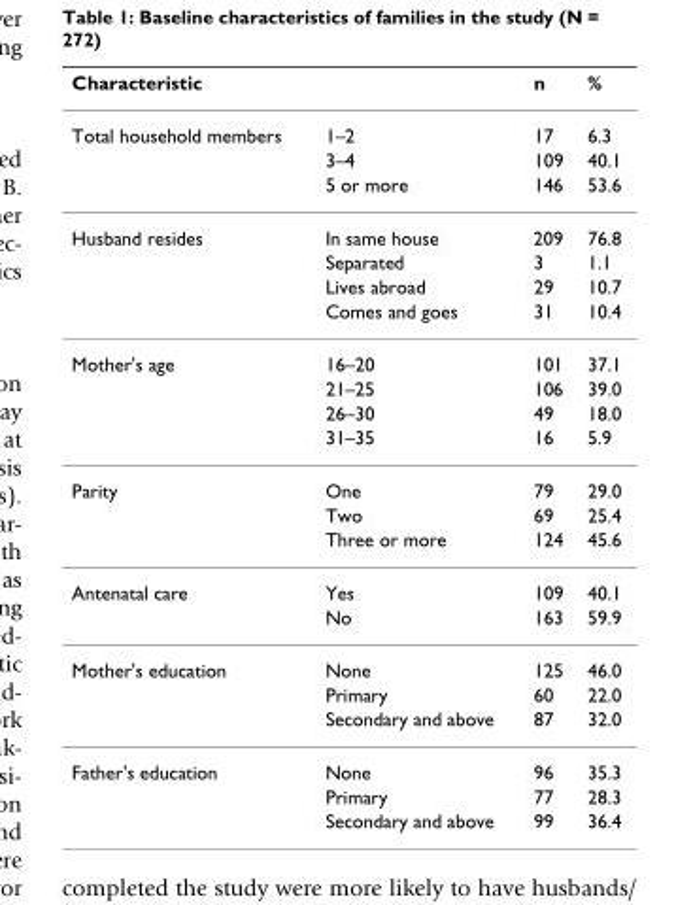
<table><thead><tr><td>Characteristic</td><td></td><td>n</td><td>%</td></tr></thead><tbody><tr><td rowspan="3">Total household members</td><td>1–2</td><td>17</td><td>6.3</td></tr><tr><td>3–4</td><td>109</td><td>40.1</td></tr><tr><td>5 or more</td><td>146</td><td>53.6</td></tr><tr><td rowspan="4">Husband resides</td><td>In same house</td><td>209</td><td>76.8</td></tr><tr><td>Separated</td><td>3</td><td>1.1</td></tr><tr><td>Lives abroad</td><td>29</td><td>10.7</td></tr><tr><td>Comes and goes</td><td>31</td><td>10.4</td></tr><tr><td rowspan="4">Mother&#x27;s age</td><td>16–20</td><td>101</td><td>37.1</td></tr><tr><td>21–25</td><td>106</td><td>39.0</td></tr><tr><td>26–30</td><td>49</td><td>18.0</td></tr><tr><td>31–35</td><td>16</td><td>5.9</td></tr><tr><td rowspan="3">Parity</td><td>One</td><td>79</td><td>29.0</td></tr><tr><td>Two</td><td>69</td><td>25.4</td></tr><tr><td>Three or more</td><td>124</td><td>45.6</td></tr><tr><td rowspan="2">Antenatal care</td><td>Yes</td><td>109</td><td>40.1</td></tr><tr><td>No</td><td>163</td><td>59.9</td></tr><tr><td rowspan="3">Mother&#x27;s education</td><td>None</td><td>125</td><td>46.0</td></tr><tr><td>Primary</td><td>60</td><td>22.0</td></tr><tr><td>Secondary and above</td><td>87</td><td>32.0</td></tr><tr><td rowspan="3">Father&#x27;s education</td><td>None</td><td>96</td><td>35.3</td></tr><tr><td>Primary</td><td>77</td><td>28.3</td></tr><tr><td>Secondary and above</td><td>99</td><td>36.4</td></tr></tbody></table>